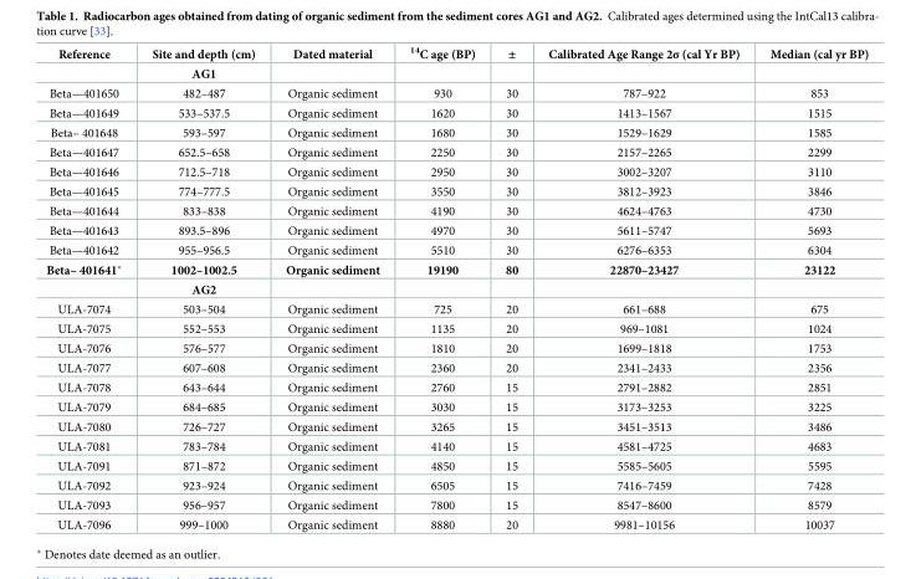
<table><thead><tr><td>Reference</td><td>Site and depth (cm)</td><td>Dated material</td><td><sup>14</sup>C age (BP)</td><td>±</td><td>Calibrated Age Range 2σ (cal Yr BP)</td><td>Median (cal yr BP)</td></tr></thead><tbody><tr><td></td><td>AG1</td><td></td><td></td><td></td><td></td><td></td></tr><tr><td>Beta—401650</td><td>482–487</td><td>Organic sediment</td><td>930</td><td>30</td><td>787–922</td><td>853</td></tr><tr><td>Beta—401649</td><td>533–537.5</td><td>Organic sediment</td><td>1620</td><td>30</td><td>1413–1567</td><td>1515</td></tr><tr><td>Beta– 401648</td><td>593–597</td><td>Organic sediment</td><td>1680</td><td>30</td><td>1529–1629</td><td>1585</td></tr><tr><td>Beta—401647</td><td>652.5–658</td><td>Organic sediment</td><td>2250</td><td>30</td><td>2157–2265</td><td>2299</td></tr><tr><td>Beta—401646</td><td>712.5–718</td><td>Organic sediment</td><td>2950</td><td>30</td><td>3002–3207</td><td>3110</td></tr><tr><td>Beta—401645</td><td>774–777.5</td><td>Organic sediment</td><td>3550</td><td>30</td><td>3812–3923</td><td>3846</td></tr><tr><td>Beta—401644</td><td>833–838</td><td>Organic sediment</td><td>4190</td><td>30</td><td>4624–4763</td><td>4730</td></tr><tr><td>Beta—401643</td><td>893.5–896</td><td>Organic sediment</td><td>4970</td><td>30</td><td>5611–5747</td><td>5693</td></tr><tr><td>Beta—401642</td><td>955–956.5</td><td>Organic sediment</td><td>5510</td><td>30</td><td>6276–6353</td><td>6304</td></tr><tr><td rowspan="2">Beta– 401641*</td><td>1002–1002.5</td><td>Organic sediment</td><td>19190</td><td>80</td><td>22870–23427</td><td>23122</td></tr><tr><td>AG2</td><td></td><td></td><td></td><td></td><td></td></tr><tr><td>ULA-7074</td><td>503–504</td><td>Organic sediment</td><td>725</td><td>20</td><td>661–688</td><td>675</td></tr><tr><td>ULA-7075</td><td>552–553</td><td>Organic sediment</td><td>1135</td><td>20</td><td>969–1081</td><td>1024</td></tr><tr><td>ULA-7076</td><td>576–577</td><td>Organic sediment</td><td>1810</td><td>20</td><td>1699–1818</td><td>1753</td></tr><tr><td>ULA-7077</td><td>607–608</td><td>Organic sediment</td><td>2360</td><td>20</td><td>2341–2433</td><td>2356</td></tr><tr><td>ULA-7078</td><td>643–644</td><td>Organic sediment</td><td>2760</td><td>15</td><td>2791–2882</td><td>2851</td></tr><tr><td>ULA-7079</td><td>684–685</td><td>Organic sediment</td><td>3030</td><td>15</td><td>3173–3253</td><td>3225</td></tr><tr><td>ULA-7080</td><td>726–727</td><td>Organic sediment</td><td>3265</td><td>15</td><td>3451–3513</td><td>3486</td></tr><tr><td>ULA-7081</td><td>783–784</td><td>Organic sediment</td><td>4140</td><td>15</td><td>4581–4725</td><td>4683</td></tr><tr><td>ULA-7091</td><td>871–872</td><td>Organic sediment</td><td>4850</td><td>15</td><td>5585–5605</td><td>5595</td></tr><tr><td>ULA-7092</td><td>923–924</td><td>Organic sediment</td><td>6505</td><td>15</td><td>7416–7459</td><td>7428</td></tr><tr><td>ULA-7093</td><td>956–957</td><td>Organic sediment</td><td>7800</td><td>15</td><td>8547–8600</td><td>8579</td></tr><tr><td>ULA-7096</td><td>999–1000</td><td>Organic sediment</td><td>8880</td><td>20</td><td>9981–10156</td><td>10037</td></tr></tbody></table>